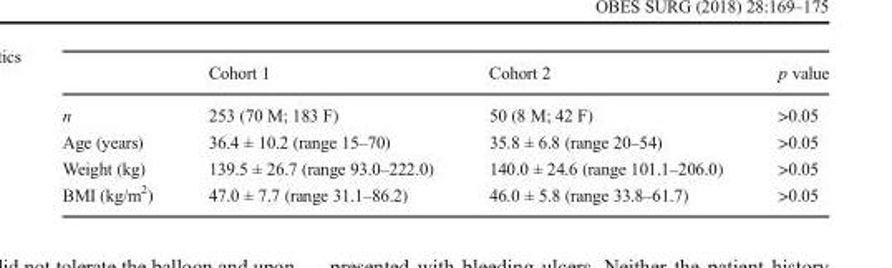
<table><thead><tr><td></td><td>Cohort 1</td><td>Cohort 2</td><td>p value</td></tr></thead><tbody><tr><td>n</td><td>253 (70 M; 183 F)</td><td>50 (8 M; 42 F)</td><td>&gt;0.05</td></tr><tr><td>Age (years)</td><td>36.4 ± 10.2 (range 15–70)</td><td>35.8 ± 6.8 (range 20–54)</td><td>&gt;0.05</td></tr><tr><td>Weight (kg)</td><td>139.5 ± 26.7 (range 93.0–222.0)</td><td>140.0 ± 24.6 (range 101.1–206.0)</td><td>&gt;0.05</td></tr><tr><td>BMI (kg/m<sup>2</sup>)</td><td>47.0 ± 7.7 (range 31.1–86.2)</td><td>46.0 ± 5.8 (range 33.8–61.7)</td><td>&gt;0.05</td></tr></tbody></table>